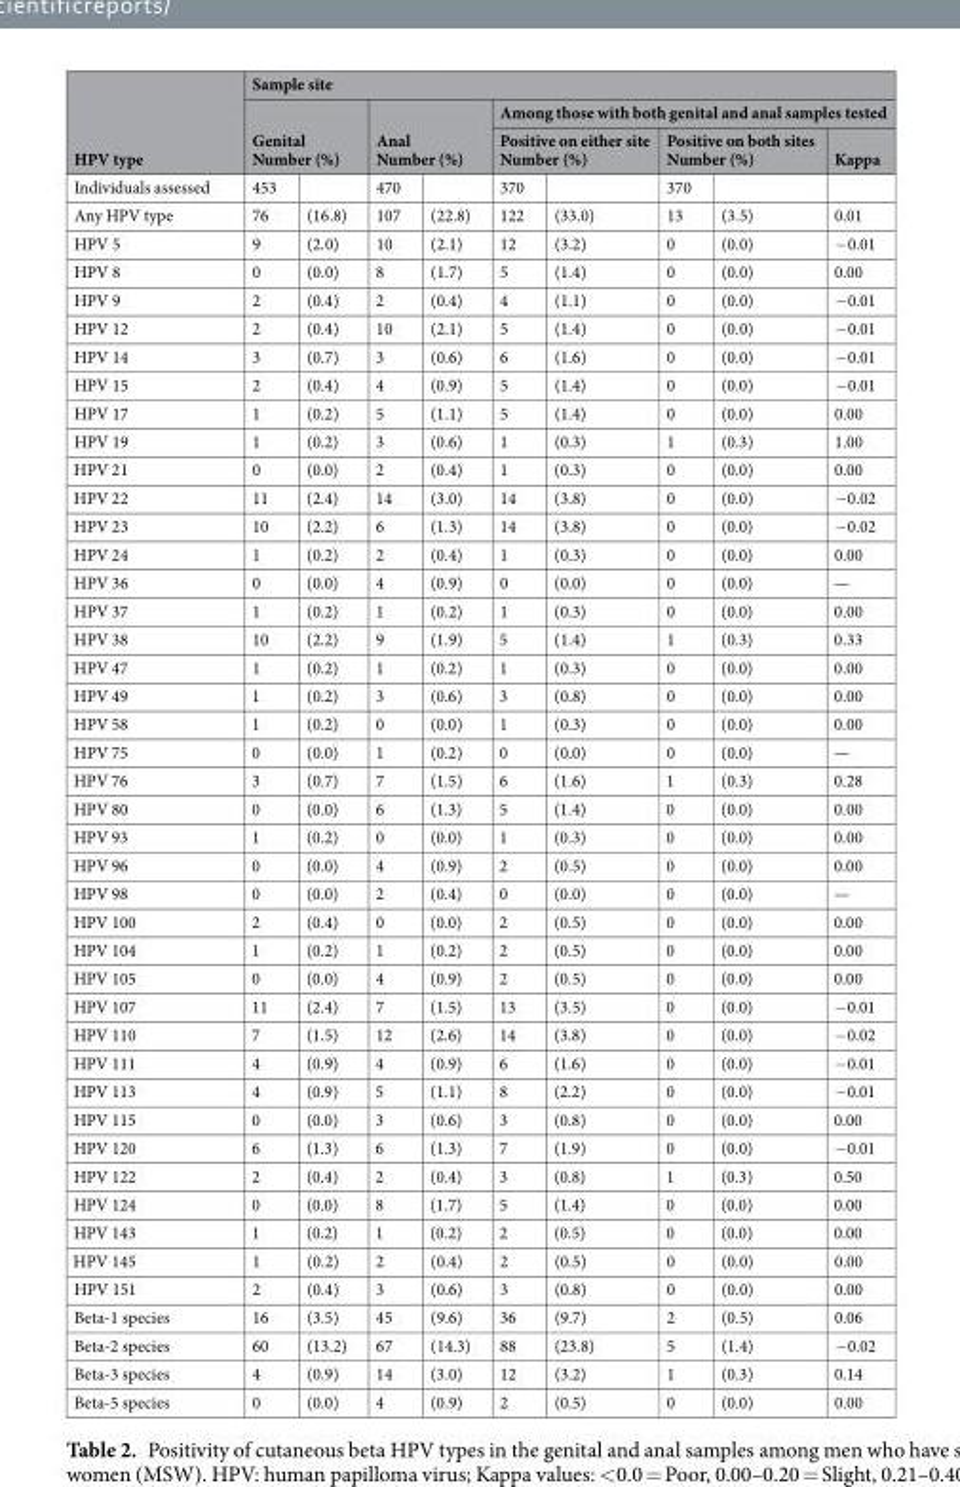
<table><thead><tr><td rowspan="4">HPV type Individuals assessed</td><td colspan="9">Sample site</td></tr><tr><td rowspan="2" colspan="2">Genital Number (%)</td><td rowspan="2" colspan="2">Anal Number (%)</td><td colspan="5">Among those with both genital and anal samples tested</td></tr><tr><td colspan="2">Positive on either site Number (%)</td><td colspan="2">Positive on both sites Number (%)</td><td rowspan="2">Kappa</td></tr><tr><td>453</td><td></td><td>470</td><td></td><td>370</td><td></td><td>370</td><td></td></tr></thead><tbody><tr><td>Any HPV type</td><td>76</td><td>(16.8)</td><td>107</td><td>(22.8)</td><td>122</td><td>(33.0)</td><td>13</td><td>(3.5)</td><td>0.01</td></tr><tr><td>HPV 5</td><td>9</td><td>(2.0)</td><td>10</td><td>(2.1)</td><td>12</td><td>(3.2)</td><td>0</td><td>(0.0)</td><td>−0.01</td></tr><tr><td>HPV 8</td><td>0</td><td>(0.0)</td><td>8</td><td>(1.7)</td><td>5</td><td>(1.4)</td><td>0</td><td>(0.0)</td><td>0.00</td></tr><tr><td>HPV 9</td><td>2</td><td>(0.4)</td><td>2</td><td>(0.4)</td><td>4</td><td>(1.1)</td><td>0</td><td>(0.0)</td><td>−0.01</td></tr><tr><td>HPV 12</td><td>2</td><td>(0.4)</td><td>10</td><td>(2.1)</td><td>5</td><td>(1.4)</td><td>0</td><td>(0.0)</td><td>−0.01</td></tr><tr><td>HPV 14</td><td>3</td><td>(0.7)</td><td>3</td><td>(0.6)</td><td>6</td><td>(1.6)</td><td>0</td><td>(0.0)</td><td>−0.01</td></tr><tr><td>HPV 15</td><td>2</td><td>(0.4)</td><td>4</td><td>(0.9)</td><td>5</td><td>(1.4)</td><td>0</td><td>(0.0)</td><td>−0.01</td></tr><tr><td>HPV 17</td><td>1</td><td>(0.2)</td><td>5</td><td>(1.1)</td><td>5</td><td>(1.4)</td><td>0</td><td>(0.0)</td><td>0.00</td></tr><tr><td>HPV 19</td><td>1</td><td>(0.2)</td><td>3</td><td>(0.6)</td><td>1</td><td>(0.3)</td><td>1</td><td>(0.3)</td><td>1.00</td></tr><tr><td>HPV 21</td><td>0</td><td>(0.0)</td><td>2</td><td>(0.4)</td><td>1</td><td>(0.3)</td><td>0</td><td>(0.0)</td><td>0.00</td></tr><tr><td>HPV 22</td><td>11</td><td>(2.4)</td><td>14</td><td>(3.0)</td><td>14</td><td>(3.8)</td><td>0</td><td>(0.0)</td><td>−0.02</td></tr><tr><td>HPV 23</td><td>10</td><td>(2.2)</td><td>6</td><td>(1.3)</td><td>14</td><td>(3.8)</td><td>0</td><td>(0.0)</td><td>−0.02</td></tr><tr><td>HPV 24</td><td>1</td><td>(0.2)</td><td>2</td><td>(0.4)</td><td>1</td><td>(0.3)</td><td>0</td><td>(0.0)</td><td>0.00</td></tr><tr><td>HPV 36</td><td>0</td><td>(0.0)</td><td>4</td><td>(0.9)</td><td>0</td><td>(0.0)</td><td>0</td><td>(0.0)</td><td>—</td></tr><tr><td>HPV 37</td><td>1</td><td>(0.2)</td><td>1</td><td>(0.2)</td><td>1</td><td>(0.3)</td><td>0</td><td>(0.0)</td><td>0.00</td></tr><tr><td>HPV 38</td><td>10</td><td>(2.2)</td><td>9</td><td>(1.9)</td><td>5</td><td>(1.4)</td><td>1</td><td>(0.3)</td><td>0.33</td></tr><tr><td>HPV 47</td><td>1</td><td>(0.2)</td><td>1</td><td>(0.2)</td><td>1</td><td>(0.3)</td><td>0</td><td>(0.0)</td><td>0.00</td></tr><tr><td>HPV 49</td><td>1</td><td>(0.2)</td><td>3</td><td>(0.6)</td><td>3</td><td>(0.8)</td><td>0</td><td>(0.0)</td><td>0.00</td></tr><tr><td>HPV 58</td><td>1</td><td>(0.2)</td><td>0</td><td>(0.0)</td><td>1</td><td>(0.3)</td><td>0</td><td>(0.0)</td><td>0.00</td></tr><tr><td>HPV 75</td><td>0</td><td>(0.0)</td><td>1</td><td>(0.2)</td><td>0</td><td>(0.0)</td><td>0</td><td>(0.0)</td><td>—</td></tr><tr><td>HPV 76</td><td>3</td><td>(0.7)</td><td>7</td><td>(1.5)</td><td>6</td><td>(1.6)</td><td>1</td><td>(0.3)</td><td>0.28</td></tr><tr><td>HPV 80</td><td>0</td><td>(0.0)</td><td>6</td><td>(1.3)</td><td>5</td><td>(1.4)</td><td>0</td><td>(0.0)</td><td>0.00</td></tr><tr><td>HPV 93</td><td>1</td><td>(0.2)</td><td>0</td><td>(0.0)</td><td>1</td><td>(0.3)</td><td>0</td><td>(0.0)</td><td>0.00</td></tr><tr><td>HPV 96</td><td>0</td><td>(0.0)</td><td>4</td><td>(0.9)</td><td>2</td><td>(0.5)</td><td>0</td><td>(0.0)</td><td>0.00</td></tr><tr><td>HPV 98</td><td>0</td><td>(0.0)</td><td>2</td><td>(0.4)</td><td>0</td><td>(0.0)</td><td>0</td><td>(0.0)</td><td>—</td></tr><tr><td>HPV 100</td><td>2</td><td>(0.4)</td><td>0</td><td>(0.0)</td><td>2</td><td>(0.5)</td><td>0</td><td>(0.0)</td><td>0.00</td></tr><tr><td>HPV 104</td><td>1</td><td>(0.2)</td><td>1</td><td>(0.2)</td><td>2</td><td>(0.5)</td><td>0</td><td>(0.0)</td><td>0.00</td></tr><tr><td>HPV 105</td><td>0</td><td>(0.0)</td><td>4</td><td>(0.9)</td><td>2</td><td>(0.5)</td><td>0</td><td>(0.0)</td><td>0.00</td></tr><tr><td>HPV 107</td><td>11</td><td>(2.4)</td><td>7</td><td>(1.5)</td><td>13</td><td>(3.5)</td><td>0</td><td>(0.0)</td><td>−0.01</td></tr><tr><td>HPV 110</td><td>7</td><td>(1.5)</td><td>12</td><td>(2.6)</td><td>14</td><td>(3.8)</td><td>0</td><td>(0.0)</td><td>−0.02</td></tr><tr><td>HPV 111</td><td>4</td><td>(0.9)</td><td>4</td><td>(0.9)</td><td>6</td><td>(1.6)</td><td>0</td><td>(0.0)</td><td>−0.01</td></tr><tr><td>HPV 113</td><td>4</td><td>(0.9)</td><td>5</td><td>(1.1)</td><td>8</td><td>(2.2)</td><td>0</td><td>(0.0)</td><td>−0.01</td></tr><tr><td>HPV 115</td><td>0</td><td>(0.0)</td><td>3</td><td>(0.6)</td><td>3</td><td>(0.8)</td><td>0</td><td>(0.0)</td><td>0.00</td></tr><tr><td>HPV 120</td><td>6</td><td>(1.3)</td><td>6</td><td>(1.3)</td><td>7</td><td>(1.9)</td><td>0</td><td>(0.0)</td><td>−0.01</td></tr><tr><td>HPV 122</td><td>2</td><td>(0.4)</td><td>2</td><td>(0.4)</td><td>3</td><td>(0.8)</td><td>1</td><td>(0.3)</td><td>0.50</td></tr><tr><td>HPV 124</td><td>0</td><td>(0.0)</td><td>8</td><td>(1.7)</td><td>5</td><td>(1.4)</td><td>0</td><td>(0.0)</td><td>0.00</td></tr><tr><td>HPV 143</td><td>1</td><td>(0.2)</td><td>1</td><td>(0.2)</td><td>2</td><td>(0.5)</td><td>0</td><td>(0.0)</td><td>0.00</td></tr><tr><td>HPV 145</td><td>1</td><td>(0.2)</td><td>2</td><td>(0.4)</td><td>2</td><td>(0.5)</td><td>0</td><td>(0.0)</td><td>0.00</td></tr><tr><td>HPV 151</td><td>2</td><td>(0.4)</td><td>3</td><td>(0.6)</td><td>3</td><td>(0.8)</td><td>0</td><td>(0.0)</td><td>0.00</td></tr><tr><td>Beta-1 species</td><td>16</td><td>(3.5)</td><td>45</td><td>(9.6)</td><td>36</td><td>(9.7)</td><td>2</td><td>(0.5)</td><td>0.06</td></tr><tr><td>Beta-2 species</td><td>60</td><td>(13.2)</td><td>67</td><td>(14.3)</td><td>88</td><td>(23.8)</td><td>5</td><td>(1.4)</td><td>−0.02</td></tr><tr><td>Beta-3 species</td><td>4</td><td>(0.9)</td><td>14</td><td>(3.0)</td><td>12</td><td>(3.2)</td><td>1</td><td>(0.3)</td><td>0.14</td></tr><tr><td>Beta-5 species</td><td>0</td><td>(0.0)</td><td>4</td><td>(0.9)</td><td>2</td><td>(0.5)</td><td>0</td><td>(0.0)</td><td>0.00</td></tr></tbody></table>